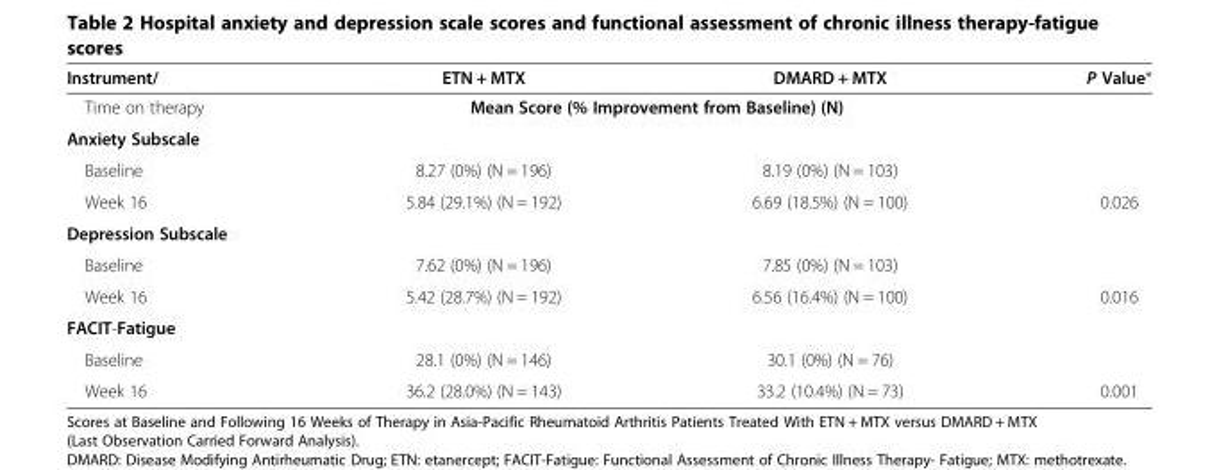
<table><thead><tr><td>Instrument/</td><td>ETN + MTX</td><td>DMARD + MTX</td><td>P Value*</td></tr></thead><tbody><tr><td>Time on therapy</td><td colspan="2">Mean Score (% Improvement from Baseline) (N)</td><td></td></tr><tr><td colspan="4">Anxiety Subscale</td></tr><tr><td>Baseline</td><td>8.27 (0%) (N = 196)</td><td>8.19 (0%) (N = 103)</td><td></td></tr><tr><td>Week 16</td><td>5.84 (29.1%) (N = 192)</td><td>6.69 (18.5%) (N = 100)</td><td>0.026</td></tr><tr><td colspan="4">Depression Subscale</td></tr><tr><td>Baseline</td><td>7.62 (0%) (N = 196)</td><td>7.85 (0%) (N = 103)</td><td></td></tr><tr><td>Week 16</td><td>5.42 (28.7%) (N = 192)</td><td>6.56 (16.4%) (N = 100)</td><td>0.016</td></tr><tr><td colspan="4">FACIT-Fatigue</td></tr><tr><td>Baseline</td><td>28.1 (0%) (N = 146)</td><td>30.1 (0%) (N = 76)</td><td></td></tr><tr><td>Week 16</td><td>36.2 (28.0%) (N = 143)</td><td>33.2 (10.4%) (N = 73)</td><td>0.001</td></tr></tbody></table>